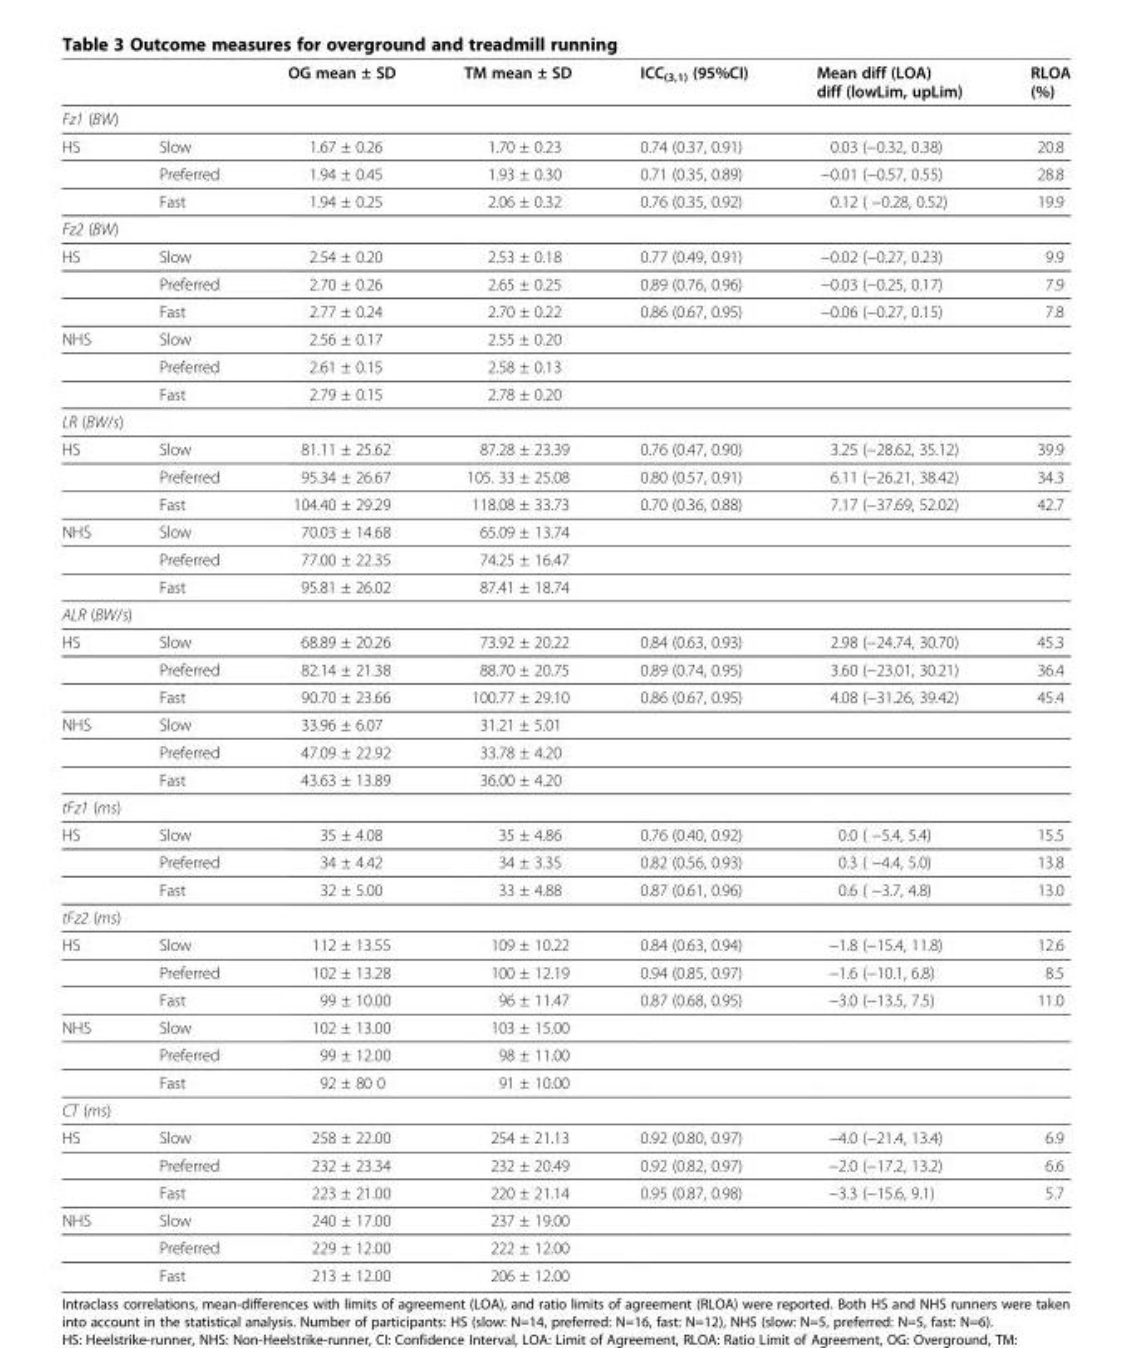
<table><thead><tr><td></td><td></td><td>OG mean ± SD</td><td>TM mean ± SD</td><td>ICC<sub>(3,1)</sub> (95%CI)</td><td>Mean diff (LOA) diff (lowLim, upLim)</td><td>RLOA (%)</td></tr></thead><tbody><tr><td colspan="7">Fz1 (BW)</td></tr><tr><td rowspan="3">HS</td><td>Slow</td><td>1.67 ± 0.26</td><td>1.70 ± 0.23</td><td>0.74 (0.37, 0.91)</td><td>0.03 (−0.32, 0.38)</td><td>20.8</td></tr><tr><td>Preferred</td><td>1.94 ± 0.45</td><td>1.93 ± 0.30</td><td>0.71 (0.35, 0.89)</td><td>−0.01 (−0.57, 0.55)</td><td>28.8</td></tr><tr><td>Fast</td><td>1.94 ± 0.25</td><td>2.06 ± 0.32</td><td>0.76 (0.35, 0.92)</td><td>0.12 ( −0.28, 0.52)</td><td>19.9</td></tr><tr><td colspan="7">Fz2 (BW)</td></tr><tr><td rowspan="3">HS</td><td>Slow</td><td>2.54 ± 0.20</td><td>2.53 ± 0.18</td><td>0.77 (0.49, 0.91)</td><td>−0.02 (−0.27, 0.23)</td><td>9.9</td></tr><tr><td>Preferred</td><td>2.70 ± 0.26</td><td>2.65 ± 0.25</td><td>0.89 (0.76, 0.96)</td><td>−0.03 (−0.25, 0.17)</td><td>7.9</td></tr><tr><td>Fast</td><td>2.77 ± 0.24</td><td>2.70 ± 0.22</td><td>0.86 (0.67, 0.95)</td><td>−0.06 (−0.27, 0.15)</td><td>7.8</td></tr><tr><td rowspan="3">NHS</td><td>Slow</td><td>2.56 ± 0.17</td><td>2.55 ± 0.20</td><td></td><td></td><td></td></tr><tr><td>Preferred</td><td>2.61 ± 0.15</td><td>2.58 ± 0.13</td><td></td><td></td><td></td></tr><tr><td>Fast</td><td>2.79 ± 0.15</td><td>2.78 ± 0.20</td><td></td><td></td><td></td></tr><tr><td colspan="7">LR (BW/s)</td></tr><tr><td rowspan="3">HS</td><td>Slow</td><td>81.11 ± 25.62</td><td>87.28 ± 23.39</td><td>0.76 (0.47, 0.90)</td><td>3.25 (−28.62, 35.12)</td><td>39.9</td></tr><tr><td>Preferred</td><td>95.34 ± 26.67</td><td>105. 33 ± 25.08</td><td>0.80 (0.57, 0.91)</td><td>6.11 (−26.21, 38.42)</td><td>34.3</td></tr><tr><td>Fast</td><td>104.40 ± 29.29</td><td>118.08 ± 33.73</td><td>0.70 (0.36, 0.88)</td><td>7.17 (−37.69, 52.02)</td><td>42.7</td></tr><tr><td rowspan="3">NHS</td><td>Slow</td><td>70.03 ± 14.68</td><td>65.09 ± 13.74</td><td></td><td></td><td></td></tr><tr><td>Preferred</td><td>77.00 ± 22.35</td><td>74.25 ± 16.47</td><td></td><td></td><td></td></tr><tr><td>Fast</td><td>95.81 ± 26.02</td><td>87.41 ± 18.74</td><td></td><td></td><td></td></tr><tr><td colspan="7">ALR (BW/s)</td></tr><tr><td rowspan="3">HS</td><td>Slow</td><td>68.89 ± 20.26</td><td>73.92 ± 20.22</td><td>0.84 (0.63, 0.93)</td><td>2.98 (−24.74, 30.70)</td><td>45.3</td></tr><tr><td>Preferred</td><td>82.14 ± 21.38</td><td>88.70 ± 20.75</td><td>0.89 (0.74, 0.95)</td><td>3.60 (−23.01, 30.21)</td><td>36.4</td></tr><tr><td>Fast</td><td>90.70 ± 23.66</td><td>100.77 ± 29.10</td><td>0.86 (0.67, 0.95)</td><td>4.08 (−31.26, 39.42)</td><td>45.4</td></tr><tr><td rowspan="3">NHS</td><td>Slow</td><td>33.96 ± 6.07</td><td>31.21 ± 5.01</td><td></td><td></td><td></td></tr><tr><td>Preferred</td><td>47.09 ± 22.92</td><td>33.78 ± 4.20</td><td></td><td></td><td></td></tr><tr><td>Fast</td><td>43.63 ± 13.89</td><td>36.00 ± 4.20</td><td></td><td></td><td></td></tr><tr><td colspan="7">tFz1 (ms)</td></tr><tr><td rowspan="3">HS</td><td>Slow</td><td>35 ± 4.08</td><td>35 ± 4.86</td><td>0.76 (0.40, 0.92)</td><td>0.0 ( −5.4, 5.4)</td><td>15.5</td></tr><tr><td>Preferred</td><td>34 ± 4.42</td><td>34 ± 3.35</td><td>0.82 (0.56, 0.93)</td><td>0.3 ( −4.4, 5.0)</td><td>13.8</td></tr><tr><td>Fast</td><td>32 ± 5.00</td><td>33 ± 4.88</td><td>0.87 (0.61, 0.96)</td><td>0.6 ( −3.7, 4.8)</td><td>13.0</td></tr><tr><td colspan="7">tFz2 (ms)</td></tr><tr><td rowspan="3">HS</td><td>Slow</td><td>112 ± 13.55</td><td>109 ± 10.22</td><td>0.84 (0.63, 0.94)</td><td>−1.8 (−15.4, 11.8)</td><td>12.6</td></tr><tr><td>Preferred</td><td>102 ± 13.28</td><td>100 ± 12.19</td><td>0.94 (0.85, 0.97)</td><td>−1.6 (−10.1, 6.8)</td><td>8.5</td></tr><tr><td>Fast</td><td>99 ± 10.00</td><td>96 ± 11.47</td><td>0.87 (0.68, 0.95)</td><td>−3.0 (−13.5, 7.5)</td><td>11.0</td></tr><tr><td rowspan="3">NHS</td><td>Slow</td><td>102 ± 13.00</td><td>103 ± 15.00</td><td></td><td></td><td></td></tr><tr><td>Preferred</td><td>99 ± 12.00</td><td>98 ± 11.00</td><td></td><td></td><td></td></tr><tr><td>Fast</td><td>92 ± 80 0</td><td>91 ± 10.00</td><td></td><td></td><td></td></tr><tr><td colspan="7">CT (ms)</td></tr><tr><td rowspan="3">HS</td><td>Slow</td><td>258 ± 22.00</td><td>254 ± 21.13</td><td>0.92 (0.80, 0.97)</td><td>−4.0 (−21.4, 13.4)</td><td>6.9</td></tr><tr><td>Preferred</td><td>232 ± 23.34</td><td>232 ± 20.49</td><td>0.92 (0.82, 0.97)</td><td>−2.0 (−17.2, 13.2)</td><td>6.6</td></tr><tr><td>Fast</td><td>223 ± 21.00</td><td>220 ± 21.14</td><td>0.95 (0.87, 0.98)</td><td>−3.3 (−15.6, 9.1)</td><td>5.7</td></tr><tr><td rowspan="3">NHS</td><td>Slow</td><td>240 ± 17.00</td><td>237 ± 19.00</td><td></td><td></td><td></td></tr><tr><td>Preferred</td><td>229 ± 12.00</td><td>222 ± 12.00</td><td></td><td></td><td></td></tr><tr><td>Fast</td><td>213 ± 12.00</td><td>206 ± 12.00</td><td></td><td></td><td></td></tr></tbody></table>